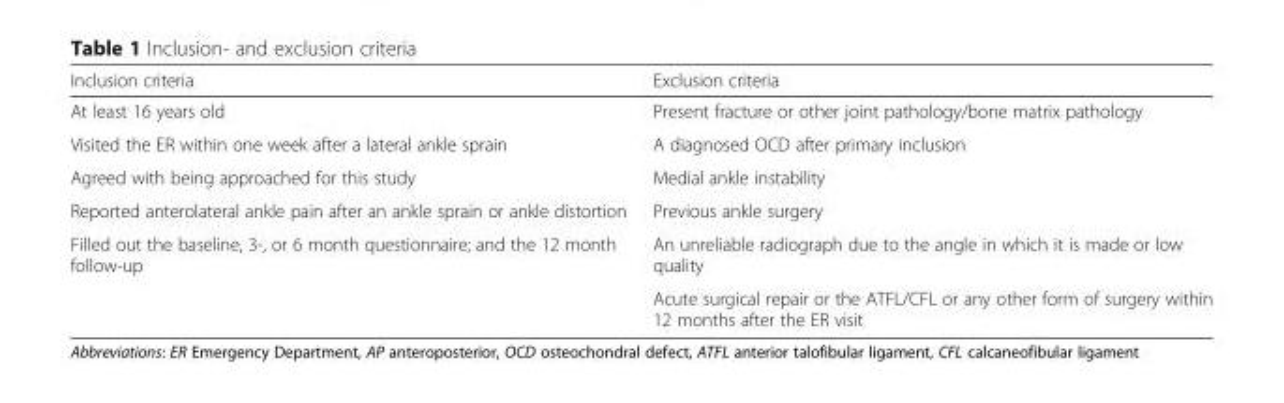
<table><thead><tr><td>Inclusion criteria</td><td>Exclusion criteria</td></tr></thead><tbody><tr><td>At least 16 years old</td><td>Present fracture or other joint pathology/bone matrix pathology</td></tr><tr><td>Visited the ER within one week after a lateral ankle sprain</td><td>A diagnosed OCD after primary inclusion</td></tr><tr><td>Agreed with being approached for this study</td><td>Medial ankle instability</td></tr><tr><td>Reported anterolateral ankle pain after an ankle sprain or ankle distortion</td><td>Previous ankle surgery</td></tr><tr><td rowspan="2">Filled out the baseline, 3-, or 6 month questionnaire; and the 12 month follow-up</td><td>An unreliable radiograph due to the angle in which it is made or low quality</td></tr><tr><td>Acute surgical repair or the ATFL/CFL or any other form of surgery within 12 months after the ER visit</td></tr></tbody></table>